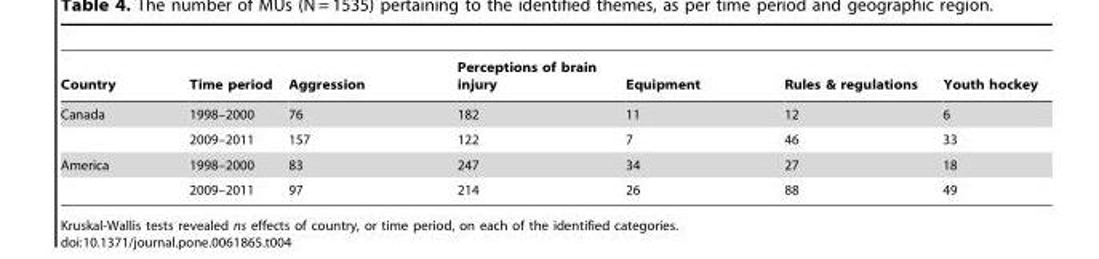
<table><thead><tr><td>Country</td><td>Time period</td><td>Aggression</td><td>Perceptions of brain injury</td><td>Equipment</td><td>Rules &amp; regulations</td><td>Youth hockey</td></tr></thead><tbody><tr><td rowspan="2">Canada</td><td>1998–2000</td><td>76</td><td>182</td><td>11</td><td>12</td><td>6</td></tr><tr><td>2009–2011</td><td>157</td><td>122</td><td>7</td><td>46</td><td>33</td></tr><tr><td rowspan="2">America</td><td>1998–2000</td><td>83</td><td>247</td><td>34</td><td>27</td><td>18</td></tr><tr><td>2009–2011</td><td>97</td><td>214</td><td>26</td><td>88</td><td>49</td></tr></tbody></table>